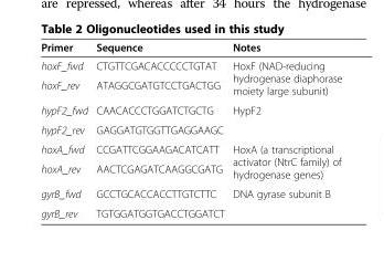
<table><thead><tr><td>Primer</td><td>Sequence</td><td>Notes</td></tr></thead><tbody><tr><td>hoxF_fwd</td><td>CTGTTCGACACCCCCTGTAT</td><td rowspan="2">HoxF (NAD-reducing hydrogenase diaphorase moiety large subunit)</td></tr><tr><td>hoxF_rev</td><td>ATAGGCGATGTCCTGACTGG</td></tr><tr><td>hypF2_fwd</td><td>CAACACCCTGGATCTGCTG</td><td rowspan="2">HypF2</td></tr><tr><td>hypF2_rev</td><td>GAGGATGTGGTTGAGGAAGC</td></tr><tr><td>hoxA_fwd</td><td>CCGATTCGGAAGACATCATT</td><td rowspan="2">HoxA (a transcriptional activator (NtrC family) of hydrogenase genes)</td></tr><tr><td>hoxA_rev</td><td>AACTCGAGATCAAGGCGATG</td></tr><tr><td>gyrB_fwd</td><td>GCCTGCACCACCTTGTCTTC</td><td rowspan="2">DNA gyrase subunit B</td></tr><tr><td>gyrB_rev</td><td>TGTGGATGGTGACCTGGATCT</td></tr></tbody></table>